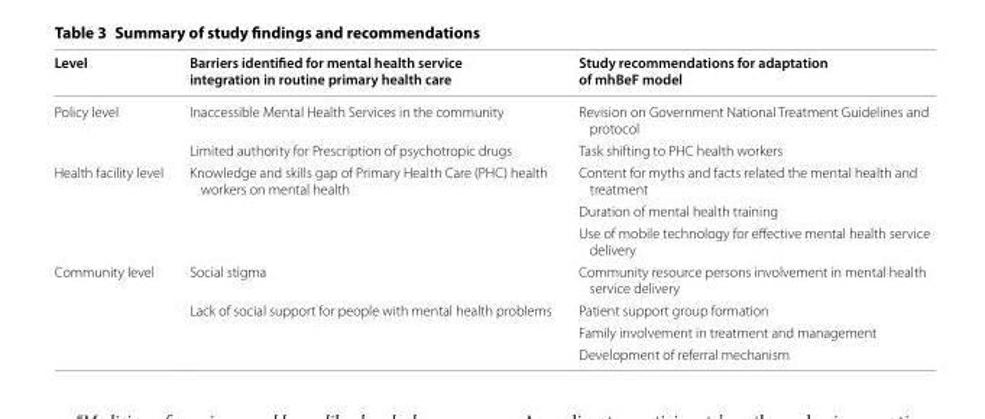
<table><thead><tr><td>Level</td><td>Barriers identified for mental health service integration in routine primary health care</td><td>Study recommendations for adaptation of mhBeF model</td></tr></thead><tbody><tr><td rowspan="2">Policy level</td><td>Inaccessible Mental Health Services in the community</td><td>Revision on Government National Treatment Guidelines and protocol</td></tr><tr><td>Limited authority for Prescription of psychotropic drugs</td><td>Task shifting to PHC health workers</td></tr><tr><td rowspan="3">Health facility level</td><td rowspan="3">Knowledge and skills gap of Primary Health Care (PHC) health workers on mental health</td><td>Content for myths and facts related the mental health and treatment</td></tr><tr><td>Duration of mental health training</td></tr><tr><td>Use of mobile technology for effective mental health service delivery</td></tr><tr><td rowspan="4">Community level</td><td>Social stigma</td><td>Community resource persons involvement in mental health service delivery</td></tr><tr><td rowspan="3">Lack of social support for people with mental health problems</td><td>Patient support group formation</td></tr><tr><td>Family involvement in treatment and management</td></tr><tr><td>Development of referral mechanism</td></tr></tbody></table>